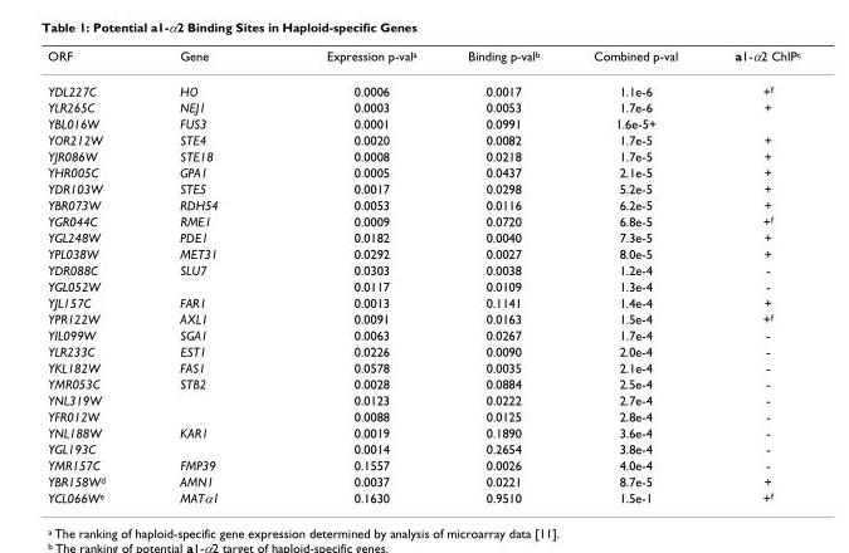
<table><thead><tr><td>ORF</td><td>Gene</td><td>Expression p-val<sup>a</sup></td><td>Binding p-val<sup>b</sup></td><td>Combined p-val</td><td>a1-α2 ChIP<sup>c</sup></td></tr></thead><tbody><tr><td>YDL227C</td><td>HO</td><td>0.0006</td><td>0.0017</td><td>1.1e-6</td><td>+<sup>f</sup></td></tr><tr><td>YLR265C</td><td>NEJ1</td><td>0.0003</td><td>0.0053</td><td>1.7e-6</td><td>+</td></tr><tr><td>YBL016W</td><td>FUS3</td><td>0.0001</td><td>0.0991</td><td>1.6e-5+</td><td></td></tr><tr><td>YOR212W</td><td>STE4</td><td>0.0020</td><td>0.0082</td><td>1.7e-5</td><td>+</td></tr><tr><td>YJR086W</td><td>STE18</td><td>0.0008</td><td>0.0218</td><td>1.7e-5</td><td>+</td></tr><tr><td>YHR005C</td><td>GPA1</td><td>0.0005</td><td>0.0437</td><td>2.1e-5</td><td>+</td></tr><tr><td>YDR103W</td><td>STE5</td><td>0.0017</td><td>0.0298</td><td>5.2e-5</td><td>+</td></tr><tr><td>YBR073W</td><td>RDH54</td><td>0.0053</td><td>0.0116</td><td>6.2e-5</td><td>+</td></tr><tr><td>YGR044C</td><td>RME1</td><td>0.0009</td><td>0.0720</td><td>6.8e-5</td><td>+<sup>f</sup></td></tr><tr><td>YGL248W</td><td>PDE1</td><td>0.0182</td><td>0.0040</td><td>7.3e-5</td><td>+</td></tr><tr><td>YPL038W</td><td>MET31</td><td>0.0292</td><td>0.0027</td><td>8.0e-5</td><td>+</td></tr><tr><td>YDR088C</td><td>SLU7</td><td>0.0303</td><td>0.0038</td><td>1.2e-4</td><td>-</td></tr><tr><td>YGL052W</td><td></td><td>0.0117</td><td>0.0109</td><td>1.3e-4</td><td>-</td></tr><tr><td>YJL157C</td><td>FAR1</td><td>0.0013</td><td>0.1141</td><td>1.4e-4</td><td>+</td></tr><tr><td>YPR122W</td><td>AXL1</td><td>0.0091</td><td>0.0163</td><td>1.5e-4</td><td>+<sup>f</sup></td></tr><tr><td>YIL099W</td><td>SGA1</td><td>0.0063</td><td>0.0267</td><td>1.7e-4</td><td>-</td></tr><tr><td>YLR233C</td><td>EST1</td><td>0.0226</td><td>0.0090</td><td>2.0e-4</td><td>-</td></tr><tr><td>YKL182W</td><td>FAS1</td><td>0.0578</td><td>0.0035</td><td>2.1e-4</td><td>-</td></tr><tr><td>YMR053C</td><td>STB2</td><td>0.0028</td><td>0.0884</td><td>2.5e-4</td><td>-</td></tr><tr><td>YNL319W</td><td></td><td>0.0123</td><td>0.0222</td><td>2.7e-4</td><td>-</td></tr><tr><td>YFR012W</td><td></td><td>0.0088</td><td>0.0125</td><td>2.8e-4</td><td>-</td></tr><tr><td>YNL188W</td><td>KAR1</td><td>0.0019</td><td>0.1890</td><td>3.6e-4</td><td>-</td></tr><tr><td>YGL193C</td><td></td><td>0.0014</td><td>0.2654</td><td>3.8e-4</td><td>-</td></tr><tr><td>YMR157C</td><td>FMP39</td><td>0.1557</td><td>0.0026</td><td>4.0e-4</td><td>-</td></tr><tr><td>YBR158W<sup>d</sup></td><td>AMN1</td><td>0.0037</td><td>0.0221</td><td>8.7e-5</td><td>+</td></tr><tr><td>YCL066W<sup>e</sup></td><td>MATα1</td><td>0.1630</td><td>0.9510</td><td>1.5e-1</td><td>+<sup>f</sup></td></tr></tbody></table>